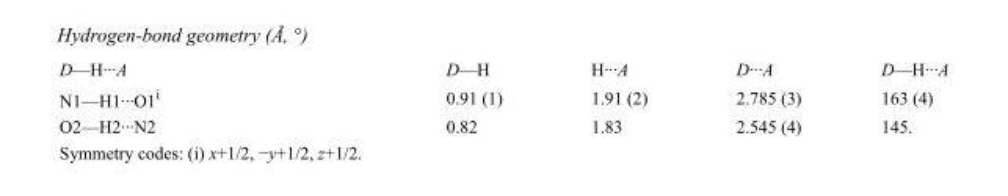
<table><tbody><tr><td>D—H···A</td><td>D—H</td><td>H···A</td><td>D···A</td><td>D—H···A</td></tr><tr><td>N1—H1···O1<sup>i</sup></td><td>0.91 (1)</td><td>1.91 (2)</td><td>2.785 (3)</td><td>163 (4)</td></tr><tr><td>O2—H2···N2</td><td>0.82</td><td>1.83</td><td>2.545 (4)</td><td>145.</td></tr></tbody></table>